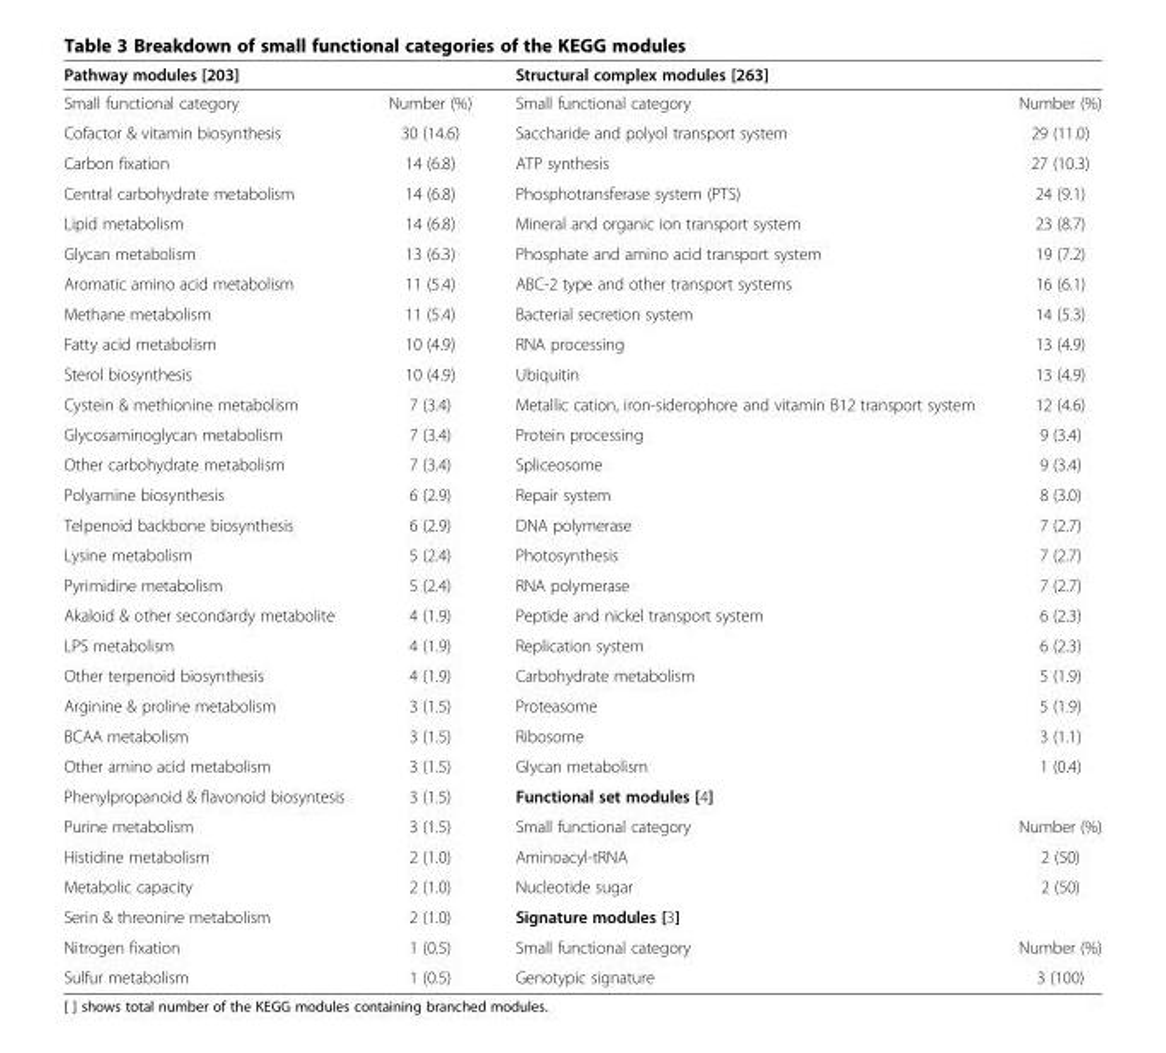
<table><thead><tr><td colspan="2">Pathway modules [203]</td><td colspan="2">Structural complex modules [263]</td></tr><tr><td>Small functional category</td><td>Number (%)</td><td>Small functional category</td><td>Number (%)</td></tr></thead><tbody><tr><td>Cofactor &amp; vitamin biosynthesis</td><td>30 (14.6)</td><td>Saccharide and polyol transport system</td><td>29 (11.0)</td></tr><tr><td>Carbon fixation</td><td>14 (6.8)</td><td>ATP synthesis</td><td>27 (10.3)</td></tr><tr><td>Central carbohydrate metabolism</td><td>14 (6.8)</td><td>Phosphotransferase system (PTS)</td><td>24 (9.1)</td></tr><tr><td>Lipid metabolism</td><td>14 (6.8)</td><td>Mineral and organic ion transport system</td><td>23 (8.7)</td></tr><tr><td>Glycan metabolism</td><td>13 (6.3)</td><td>Phosphate and amino acid transport system</td><td>19 (7.2)</td></tr><tr><td>Aromatic amino acid metabolism</td><td>11 (5.4)</td><td>ABC-2 type and other transport systems</td><td>16 (6.1)</td></tr><tr><td>Methane metabolism</td><td>11 (5.4)</td><td>Bacterial secretion system</td><td>14 (5.3)</td></tr><tr><td>Fatty acid metabolism</td><td>10 (4.9)</td><td>RNA processing</td><td>13 (4.9)</td></tr><tr><td>Sterol biosynthesis</td><td>10 (4.9)</td><td>Ubiquitin</td><td>13 (4.9)</td></tr><tr><td>Cystein &amp; methionine metabolism</td><td>7 (3.4)</td><td>Metallic cation, iron-siderophore and vitamin B12 transport system</td><td>12 (4.6)</td></tr><tr><td>Glycosaminoglycan metabolism</td><td>7 (3.4)</td><td>Protein processing</td><td>9 (3.4)</td></tr><tr><td>Other carbohydrate metabolism</td><td>7 (3.4)</td><td>Spliceosome</td><td>9 (3.4)</td></tr><tr><td>Polyamine biosynthesis</td><td>6 (2.9)</td><td>Repair system</td><td>8 (3.0)</td></tr><tr><td>Telpenoid backbone biosynthesis</td><td>6 (2.9)</td><td>DNA polymerase</td><td>7 (2.7)</td></tr><tr><td>Lysine metabolism</td><td>5 (2.4)</td><td>Photosynthesis</td><td>7 (2.7)</td></tr><tr><td>Pyrimidine metabolism</td><td>5 (2.4)</td><td>RNA polymerase</td><td>7 (2.7)</td></tr><tr><td>Akaloid &amp; other secondardy metabolite</td><td>4 (1.9)</td><td>Peptide and nickel transport system</td><td>6 (2.3)</td></tr><tr><td>LPS metabolism</td><td>4 (1.9)</td><td>Replication system</td><td>6 (2.3)</td></tr><tr><td>Other terpenoid biosynthesis</td><td>4 (1.9)</td><td>Carbohydrate metabolism</td><td>5 (1.9)</td></tr><tr><td>Arginine &amp; proline metabolism</td><td>3 (1.5)</td><td>Proteasome</td><td>5 (1.9)</td></tr><tr><td>BCAA metabolism</td><td>3 (1.5)</td><td>Ribosome</td><td>3 (1.1)</td></tr><tr><td>Other amino acid metabolism</td><td>3 (1.5)</td><td>Glycan metabolism</td><td>1 (0.4)</td></tr><tr><td>Phenylpropanoid &amp; flavonoid biosyntesis</td><td>3 (1.5)</td><td>Functional set modules [4]</td><td></td></tr><tr><td>Purine metabolism</td><td>3 (1.5)</td><td>Small functional category</td><td>Number (%)</td></tr><tr><td>Histidine metabolism</td><td>2 (1.0)</td><td>Aminoacyl-tRNA</td><td>2 (50)</td></tr><tr><td>Metabolic capacity</td><td>2 (1.0)</td><td>Nucleotide sugar</td><td>2 (50)</td></tr><tr><td>Serin &amp; threonine metabolism</td><td>2 (1.0)</td><td>Signature modules [3]</td><td></td></tr><tr><td>Nitrogen fixation</td><td>1 (0.5)</td><td>Small functional category</td><td>Number (%)</td></tr><tr><td>Sulfur metabolism</td><td>1 (0.5)</td><td>Genotypic signature</td><td>3 (100)</td></tr></tbody></table>